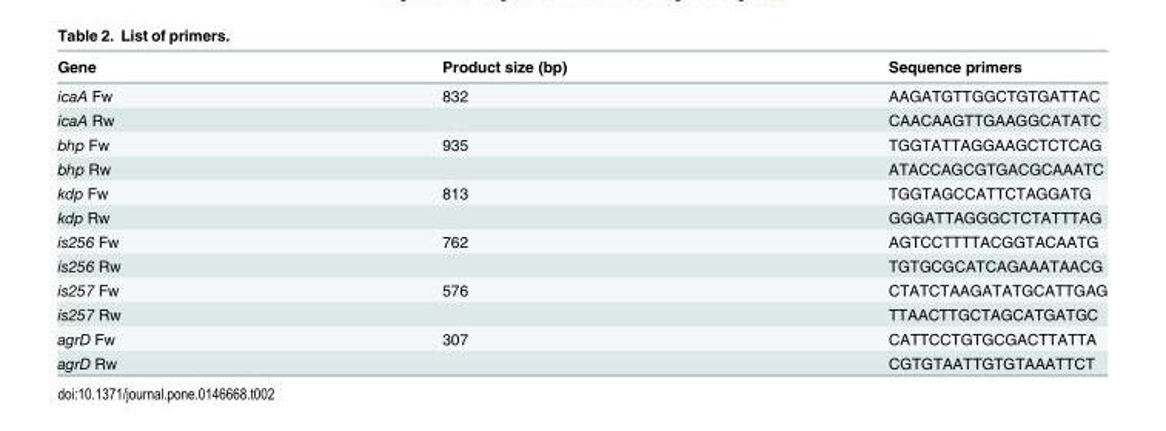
<table><thead><tr><td>Gene</td><td>Product size (bp)</td><td>Sequence primers</td></tr></thead><tbody><tr><td>icaA Fw</td><td>832</td><td>AAGATGTTGGCTGTGATTAC</td></tr><tr><td>icaA Rw</td><td></td><td>CAACAAGTTGAAGGCATATC</td></tr><tr><td>bhp Fw</td><td>935</td><td>TGGTATTAGGAAGCTCTCAG</td></tr><tr><td>bhp Rw</td><td></td><td>ATACCAGCGTGACGCAAATC</td></tr><tr><td>kdp Fw</td><td>813</td><td>TGGTAGCCATTCTAGGATG</td></tr><tr><td>kdp Rw</td><td></td><td>GGGATTAGGGCTCTATTTAG</td></tr><tr><td>is256 Fw</td><td>762</td><td>AGTCCTTTTACGGTACAATG</td></tr><tr><td>is256 Rw</td><td></td><td>TGTGCGCATCAGAAATAACG</td></tr><tr><td>is257 Fw</td><td>576</td><td>CTATCTAAGATATGCATTGAG</td></tr><tr><td>is257 Rw</td><td></td><td>TTAACTTGCTAGCATGATGC</td></tr><tr><td>agrD Fw</td><td>307</td><td>CATTCCTGTGCGACTTATTA</td></tr><tr><td>agrD Rw</td><td></td><td>CGTGTAATTGTGTAAATTCT</td></tr></tbody></table>